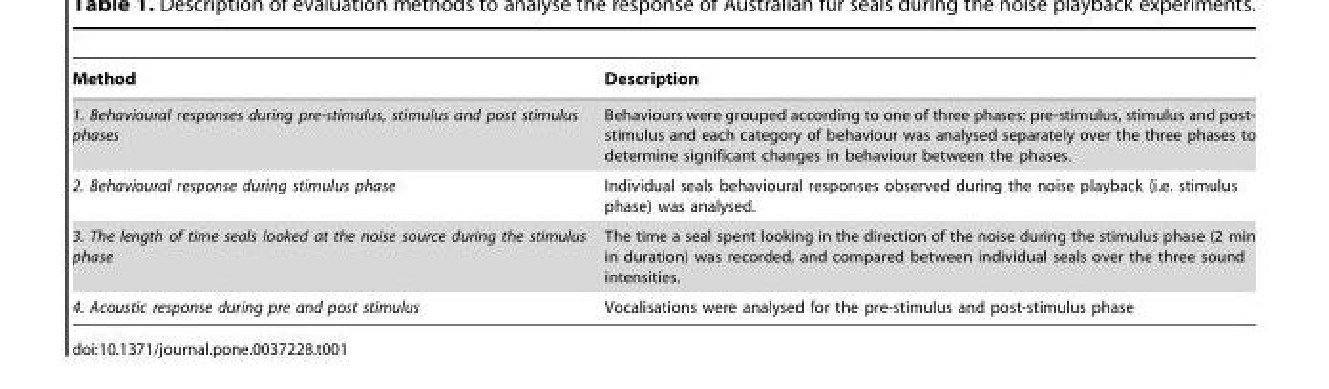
<table><thead><tr><td>Method</td><td>Description</td></tr></thead><tbody><tr><td>1. Behavioural responses during pre-stimulus, stimulus and post stimulus phases</td><td>Behaviours were grouped according to one of three phases: pre-stimulus, stimulus and post- stimulus and each category of behaviour was analysed separately over the three phases to determine significant changes in behaviour between the phases.</td></tr><tr><td>2. Behavioural response during stimulus phase</td><td>Individual seals behavioural responses observed during the noise playback (i.e. stimulus phase) was analysed.</td></tr><tr><td>3. The length of time seals looked at the noise source during the stimulus phase</td><td>The time a seal spent looking in the direction of the noise during the stimulus phase (2 min in duration) was recorded, and compared between individual seals over the three sound intensities.</td></tr><tr><td>4. Acoustic response during pre and post stimulus</td><td>Vocalisations were analysed for the pre-stimulus and post-stimulus phase</td></tr></tbody></table>